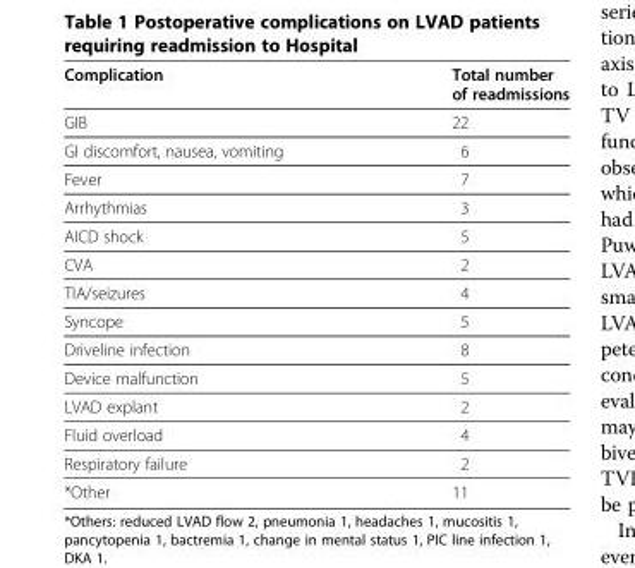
<table><thead><tr><td>Complication</td><td>Total number of readmissions</td></tr></thead><tbody><tr><td>GIB</td><td>22</td></tr><tr><td>GI discomfort, nausea, vomiting</td><td>6</td></tr><tr><td>Fever</td><td>7</td></tr><tr><td>Arrhythmias</td><td>3</td></tr><tr><td>AICD shock</td><td>5</td></tr><tr><td>CVA</td><td>2</td></tr><tr><td>TIA/seizures</td><td>4</td></tr><tr><td>Syncope</td><td>5</td></tr><tr><td>Driveline infection</td><td>8</td></tr><tr><td>Device malfunction</td><td>5</td></tr><tr><td>LVAD explant</td><td>2</td></tr><tr><td>Fluid overload</td><td>4</td></tr><tr><td>Respiratory failure</td><td>2</td></tr><tr><td>*Other</td><td>11</td></tr></tbody></table>